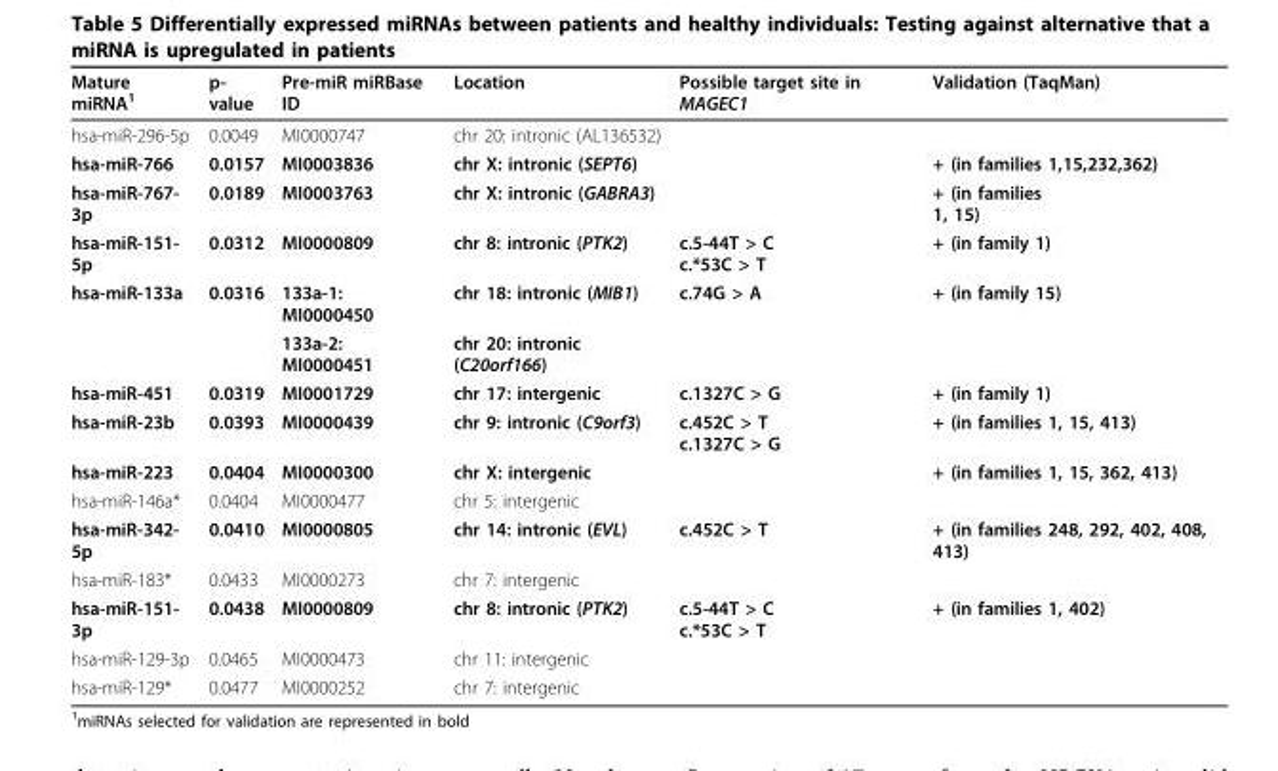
<table><thead><tr><td>Mature miRNA<sup>1</sup></td><td>p- value</td><td>Pre-miR miRBase ID</td><td>Location</td><td>Possible target site in MAGEC1</td><td>Validation (TaqMan)</td></tr></thead><tbody><tr><td>hsa-miR-296-5p</td><td>0.0049</td><td>MI0000747</td><td>chr 20: intronic (AL136532)</td><td></td><td></td></tr><tr><td>hsa-miR-766</td><td>0.0157</td><td>MI0003836</td><td>chr X: intronic (SEPT6)</td><td></td><td>+ (in families 1,15,232,362)</td></tr><tr><td>hsa-miR-767- 3p</td><td>0.0189</td><td>MI0003763</td><td>chr X: intronic (GABRA3)</td><td></td><td>+ (in families 1, 15)</td></tr><tr><td>hsa-miR-151- 5p</td><td>0.0312</td><td>MI0000809</td><td>chr 8: intronic (PTK2)</td><td>c.5-44T &gt; C c.*53C &gt; T</td><td>+ (in family 1)</td></tr><tr><td rowspan="2">hsa-miR-133a</td><td>0.0316</td><td>133a-1: MI0000450</td><td>chr 18: intronic (MIB1)</td><td>c.74G &gt; A</td><td>+ (in family 15)</td></tr><tr><td></td><td>133a-2: MI0000451</td><td>chr 20: intronic (C20orf166)</td><td></td><td></td></tr><tr><td>hsa-miR-451</td><td>0.0319</td><td>MI0001729</td><td>chr 17: intergenic</td><td>c.1327C &gt; G</td><td>+ (in family 1)</td></tr><tr><td>hsa-miR-23b</td><td>0.0393</td><td>MI0000439</td><td>chr 9: intronic (C9orf3)</td><td>c.452C &gt; T c.1327C &gt; G</td><td>+ (in families 1, 15, 413)</td></tr><tr><td>hsa-miR-223</td><td>0.0404</td><td>MI0000300</td><td>chr X: intergenic</td><td></td><td>+ (in families 1, 15, 362, 413)</td></tr><tr><td>hsa-miR-146a*</td><td>0.0404</td><td>MI0000477</td><td>chr 5: intergenic</td><td></td><td></td></tr><tr><td>hsa-miR-342- 5p</td><td>0.0410</td><td>MI0000805</td><td>chr 14: intronic (EVL)</td><td>c.452C &gt; T</td><td>+ (in families 248, 292, 402, 408, 413)</td></tr><tr><td>hsa-miR-183*</td><td>0.0433</td><td>MI0000273</td><td>chr 7: intergenic</td><td></td><td></td></tr><tr><td>hsa-miR-151- 3p</td><td>0.0438</td><td>MI0000809</td><td>chr 8: intronic (PTK2)</td><td>c.5-44T &gt; C c.*53C &gt; T</td><td>+ (in families 1, 402)</td></tr><tr><td>hsa-miR-129-3p</td><td>0.0465</td><td>MI0000473</td><td>chr 11: intergenic</td><td></td><td></td></tr><tr><td>hsa-miR-129*</td><td>0.0477</td><td>MI0000252</td><td>chr 7: intergenic</td><td></td><td></td></tr></tbody></table>